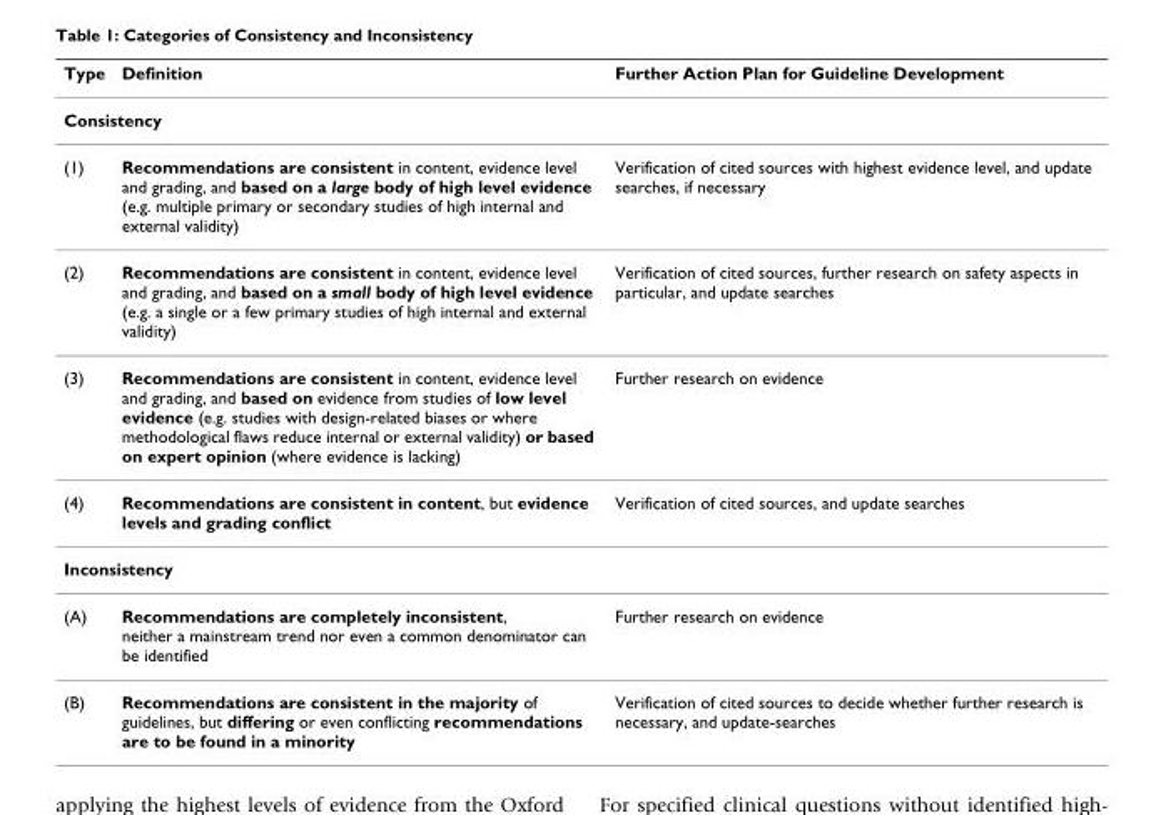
<table><thead><tr><td>Type</td><td>Definition</td><td>Further Action Plan for Guideline Development</td></tr></thead><tbody><tr><td colspan="3">Consistency</td></tr><tr><td>(1)</td><td>Recommendations are consistent in content, evidence level and grading, and based on a large body of high level evidence (e.g. multiple primary or secondary studies of high internal and external validity)</td><td>Verification of cited sources with highest evidence level, and update searches, if necessary</td></tr><tr><td>(2)</td><td>Recommendations are consistent in content, evidence level and grading, and based on a small body of high level evidence (e.g. a single or a few primary studies of high internal and external validity)</td><td>Verification of cited sources, further research on safety aspects in particular, and update searches</td></tr><tr><td>(3)</td><td>Recommendations are consistent in content, evidence level and grading, and based on evidence from studies of low level evidence (e.g. studies with design-related biases or where methodological flaws reduce internal or external validity) or based on expert opinion (where evidence is lacking)</td><td>Further research on evidence</td></tr><tr><td>(4)</td><td>Recommendations are consistent in content, but evidence levels and grading conflict</td><td>Verification of cited sources, and update searches</td></tr><tr><td colspan="3">Inconsistency</td></tr><tr><td>(A)</td><td>Recommendations are completely inconsistent, neither a mainstream trend nor even a common denominator can be identified</td><td>Further research on evidence</td></tr><tr><td>(B)</td><td>Recommendations are consistent in the majority of guidelines, but differing or even conflicting recommendations are to be found in a minority</td><td>Verification of cited sources to decide whether further research is necessary, and update-searches</td></tr></tbody></table>